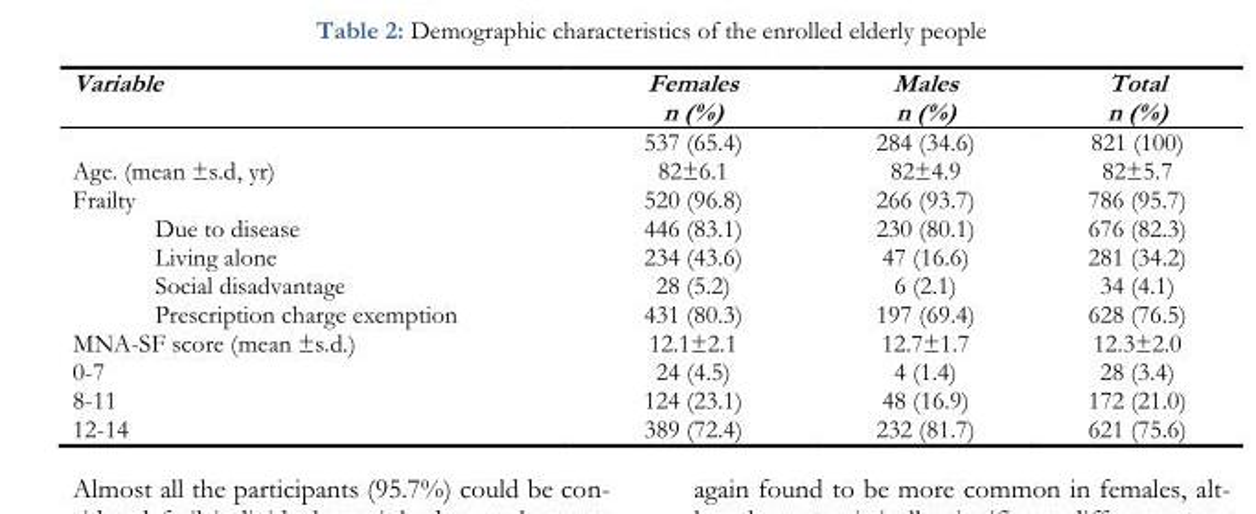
<table><thead><tr><td>Variable</td><td>Females n (%)</td><td>Males n (%)</td><td>Total n (%)</td></tr></thead><tbody><tr><td></td><td>537 (65.4)</td><td>284 (34.6)</td><td>821 (100)</td></tr><tr><td>Age. (mean ±s.d, yr)</td><td>82±6.1</td><td>82±4.9</td><td>82±5.7</td></tr><tr><td>Frailty</td><td>520 (96.8)</td><td>266 (93.7)</td><td>786 (95.7)</td></tr><tr><td>Due to disease</td><td>446 (83.1)</td><td>230 (80.1)</td><td>676 (82.3)</td></tr><tr><td>Living alone</td><td>234 (43.6)</td><td>47 (16.6)</td><td>281 (34.2)</td></tr><tr><td>Social disadvantage</td><td>28 (5.2)</td><td>6 (2.1)</td><td>34 (4.1)</td></tr><tr><td>Prescription charge exemption</td><td>431 (80.3)</td><td>197 (69.4)</td><td>628 (76.5)</td></tr><tr><td>MNA-SF score (mean ±s.d.)</td><td>12.1±2.1</td><td>12.7±1.7</td><td>12.3±2.0</td></tr><tr><td>0-7</td><td>24 (4.5)</td><td>4 (1.4)</td><td>28 (3.4)</td></tr><tr><td>8-11</td><td>124 (23.1)</td><td>48 (16.9)</td><td>172 (21.0)</td></tr><tr><td>12-14</td><td>389 (72.4)</td><td>232 (81.7)</td><td>621 (75.6)</td></tr></tbody></table>